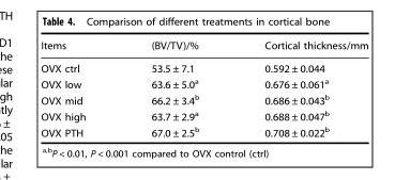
<table><thead><tr><td>Items</td><td>(BV/TV)/%</td><td>Cortical thickness/mm</td></tr></thead><tbody><tr><td>OVX ctrl</td><td>53.5 ± 7.1</td><td>0.592 ± 0.044</td></tr><tr><td>OVX low</td><td>63.6 ± 5.0<sup>a</sup></td><td>0.676 ± 0.061<sup>a</sup></td></tr><tr><td>OVX mid</td><td>66.2 ± 3.4<sup>b</sup></td><td>0.686 ± 0.043<sup>b</sup></td></tr><tr><td>OVX high</td><td>63.7 ± 2.9<sup>a</sup></td><td>0.688 ± 0.047<sup>b</sup></td></tr><tr><td>OVX PTH</td><td>67.0 ± 2.5<sup>b</sup></td><td>0.708 ± 0.022<sup>b</sup></td></tr></tbody></table>